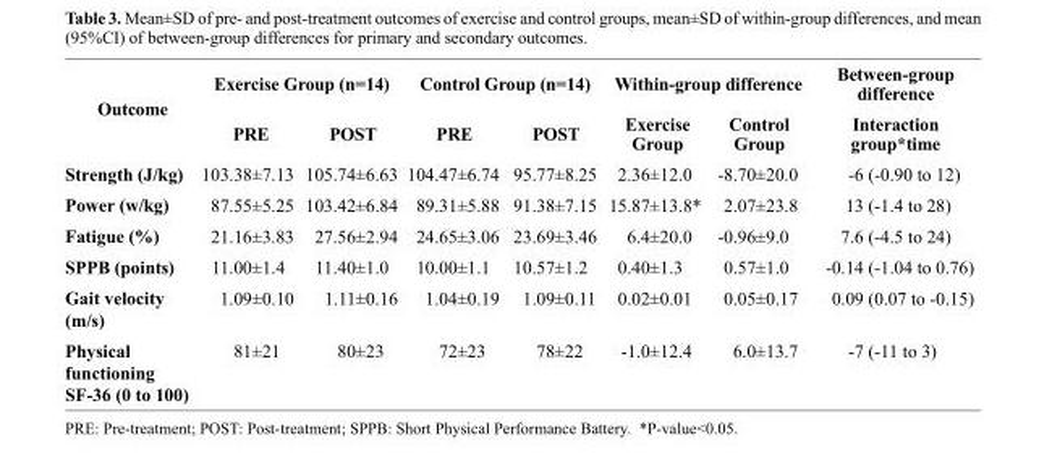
<table><thead><tr><td rowspan="2">Outcome</td><td colspan="2">Exercise Group (n=14)</td><td colspan="2">Control Group (n=14)</td><td colspan="2">Within-group difference</td><td rowspan="2">Between-group difference Interaction group*time</td></tr><tr><td>PRE</td><td>POST</td><td>PRE</td><td>POST</td><td>Exercise Group</td><td>Control Group</td></tr></thead><tbody><tr><td>Strength (J/kg)</td><td>103.38±7.13</td><td>105.74±6.63</td><td>104.47±6.74</td><td>95.77±8.25</td><td>2.36±12.0</td><td>-8.70±20.0</td><td>-6 (-0.90 to 12)</td></tr><tr><td>Power (w/kg)</td><td>87.55±5.25</td><td>103.42±6.84</td><td>89.31±5.88</td><td>91.38±7.15</td><td>15.87±13.8*</td><td>2.07±23.8</td><td>13 (-1.4 to 28)</td></tr><tr><td>Fatigue (%)</td><td>21.16±3.83</td><td>27.56±2.94</td><td>24.65±3.06</td><td>23.69±3.46</td><td>6.4±20.0</td><td>-0.96±9.0</td><td>7.6 (-4.5 to 24)</td></tr><tr><td>SPPB (points)</td><td>11.00±1.4</td><td>11.40±1.0</td><td>10.00±1.1</td><td>10.57±1.2</td><td>0.40±1.3</td><td>0.57±1.0</td><td>-0.14 (-1.04 to 0.76)</td></tr><tr><td>Gait velocity (m/s)</td><td>1.09±0.10</td><td>1.11±0.16</td><td>1.04±0.19</td><td>1.09±0.11</td><td>0.02±0.01</td><td>0.05±0.17</td><td>0.09 (0.07 to -0.15)</td></tr><tr><td>Physical functioning SF-36 (0 to 100)</td><td>81±21</td><td>80±23</td><td>72±23</td><td>78±22</td><td>-1.0±12.4</td><td>6.0±13.7</td><td>-7 (-11 to 3)</td></tr></tbody></table>